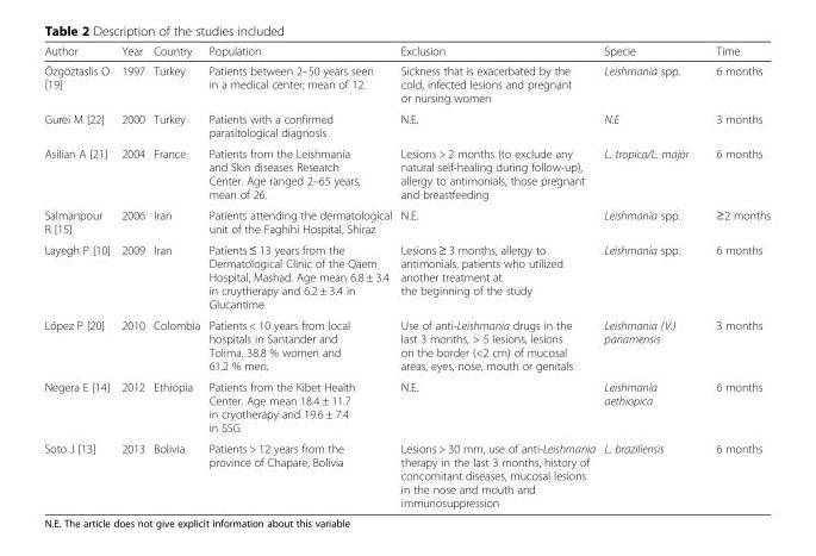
<table><thead><tr><td>Author</td><td>Year</td><td>Country</td><td>Population</td><td>Exclusion</td><td>Specie</td><td>Time</td></tr></thead><tbody><tr><td>Özgöztaslis O [19]</td><td>1997</td><td>Turkey</td><td>Patients between 2–50 years seen in a medical center; mean of 12.</td><td>Sickness that is exacerbated by the cold, infected lesions and pregnant or nursing women</td><td>Leishmania spp.</td><td>6 months</td></tr><tr><td>Gurei M [22]</td><td>2000</td><td>Turkey</td><td>Patients with a confirmed parasitological diagnosis</td><td>N.E.</td><td>N.E</td><td>3 months</td></tr><tr><td>Asilian A [21]</td><td>2004</td><td>France</td><td>Patients from the Leishmania and Skin diseases Research Center. Age ranged 2–65 years, mean of 26.</td><td>Lesions &gt; 2 months (to exclude any natural self-healing during follow-up), allergy to antimonials, those pregnant and breastfeeding</td><td>L. tropica/L. major</td><td>6 months</td></tr><tr><td>Salmanpour R [15]</td><td>2006</td><td>Iran</td><td>Patients attending the dermatological unit of the Faghihi Hospital, Shiraz</td><td>N.E.</td><td>Leishmania spp.</td><td>≥2 months</td></tr><tr><td>Layegh P [10]</td><td>2009</td><td>Iran</td><td>Patients ≤ 13 years from the Dermatological Clinic of the Qaem Hospital, Mashad. Age mean 6.8 ± 3.4 in cruytherapy and 6.2 ± 3.4 in Glucantime</td><td>Lesions ≥ 3 months, allergy to antimonials, patients who utilized another treatment at the beginning of the study</td><td>Leishmania spp.</td><td>6 months</td></tr><tr><td>López P [20]</td><td>2010</td><td>Colombia</td><td>Patients &lt; 10 years from local hospitals in Santander and Tolima. 38.8 % women and 61.2 % men.</td><td>Use of anti-Leishmania drugs in the last 3 months, &gt; 5 lesions, lesions on the border (&lt;2 cm) of mucosal areas, eyes, nose, mouth or genitals</td><td>Leishmania (V.) panamensis</td><td>3 months</td></tr><tr><td>Negera E [14]</td><td>2012</td><td>Ethiopia</td><td>Patients from the Kibet Health Center. Age mean 18.4 ± 11.7 in cryotherapy and 19.6 ± 7.4 in SSG</td><td>N.E.</td><td>Leishmania aethiopica</td><td>6 months</td></tr><tr><td>Soto J [13]</td><td>2013</td><td>Bolivia</td><td>Patients &gt; 12 years from the province of Chapare, Bolivia</td><td>Lesions &gt; 30 mm, use of anti-Leishmania therapy in the last 3 months, history of concomitant diseases, mucosal lesions in the nose and mouth and immunosuppression</td><td>L. braziliensis</td><td>6 months</td></tr></tbody></table>